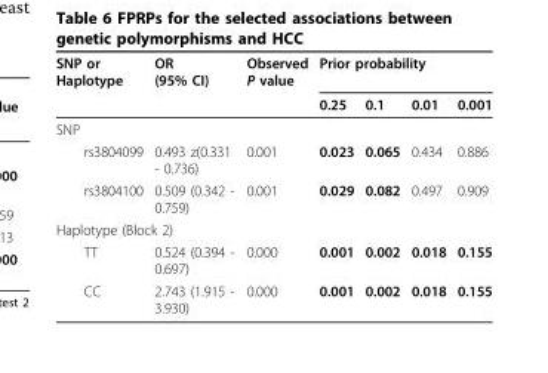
<table><thead><tr><td rowspan="2">SNP or Haplotype</td><td rowspan="2">OR (95% CI)</td><td rowspan="2">Observed P value</td><td colspan="4">Prior probability</td></tr><tr><td>0.25</td><td>0.1</td><td>0.01</td><td>0.001</td></tr></thead><tbody><tr><td colspan="7">SNP</td></tr><tr><td>rs3804099</td><td>0.493 z(0.331 - 0.736)</td><td>0.001</td><td>0.023</td><td>0.065</td><td>0.434</td><td>0.886</td></tr><tr><td>rs3804100</td><td>0.509 (0.342 - 0.759)</td><td>0.001</td><td>0.029</td><td>0.082</td><td>0.497</td><td>0.909</td></tr><tr><td colspan="7">Haplotype (Block 2)</td></tr><tr><td>TT</td><td>0.524 (0.394 - 0.697)</td><td>0.000</td><td>0.001</td><td>0.002</td><td>0.018</td><td>0.155</td></tr><tr><td>CC</td><td>2.743 (1.915 - 3.930)</td><td>0.000</td><td>0.001</td><td>0.002</td><td>0.018</td><td>0.155</td></tr></tbody></table>